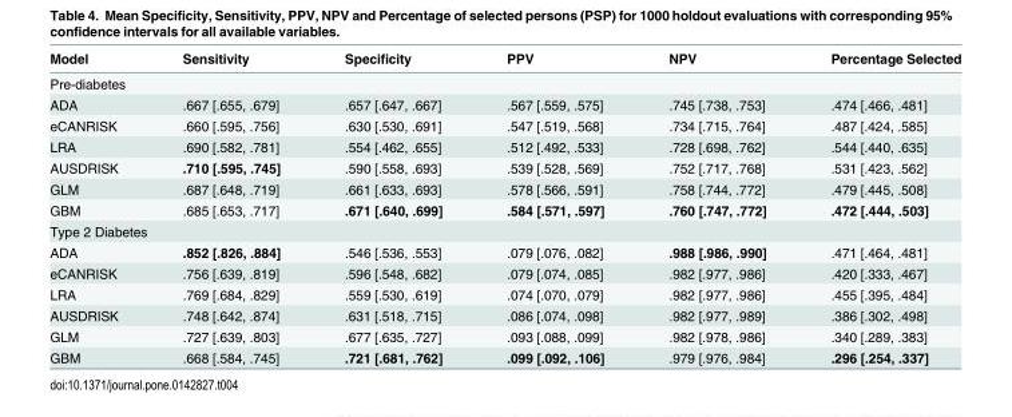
<table><thead><tr><td>Model</td><td>Sensitivity</td><td>Specificity</td><td>PPV</td><td>NPV</td><td>Percentage Selected</td></tr></thead><tbody><tr><td colspan="6">Pre-diabetes</td></tr><tr><td>ADA</td><td>.667 [.655, .679]</td><td>.657 [.647, .667]</td><td>.567 [.559, .575]</td><td>.745 [.738, .753]</td><td>.474 [.466, .481]</td></tr><tr><td>eCANRISK</td><td>.660 [.595, .756]</td><td>.630 [.530, .691]</td><td>.547 [.519, .568]</td><td>.734 [.715, .764]</td><td>.487 [.424, .585]</td></tr><tr><td>LRA</td><td>.690 [.582, .781]</td><td>.554 [.462, .655]</td><td>.512 [.492, .533]</td><td>.728 [.698, .762]</td><td>.544 [.440, .635]</td></tr><tr><td>AUSDRISK</td><td>.710 [.595, .745]</td><td>.590 [.558, .693]</td><td>.539 [.528, .569]</td><td>.752 [.717, .768]</td><td>.531 [.423, .562]</td></tr><tr><td>GLM</td><td>.687 [.648, .719]</td><td>.661 [.633, .693]</td><td>.578 [.566, .591]</td><td>.758 [.744, .772]</td><td>.479 [.445, .508]</td></tr><tr><td>GBM</td><td>.685 [.653, .717]</td><td>.671 [.640, .699]</td><td>.584 [.571, .597]</td><td>.760 [.747, .772]</td><td>.472 [.444, .503]</td></tr><tr><td colspan="6">Type 2 Diabetes</td></tr><tr><td>ADA</td><td>.852 [.826, .884]</td><td>.546 [.536, .553]</td><td>.079 [.076, .082]</td><td>.988 [.986, .990]</td><td>.471 [.464, .481]</td></tr><tr><td>eCANRISK</td><td>.756 [.639, .819]</td><td>.596 [.548, .682]</td><td>.079 [.074, .085]</td><td>.982 [.977, .986]</td><td>.420 [.333, .467]</td></tr><tr><td>LRA</td><td>.769 [.684, .829]</td><td>.559 [.530, .619]</td><td>.074 [.070, .079]</td><td>.982 [.977, .986]</td><td>.455 [.395, .484]</td></tr><tr><td>AUSDRISK</td><td>.748 [.642, .874]</td><td>.631 [.518, .715]</td><td>.086 [.074, .098]</td><td>.982 [.977, .989]</td><td>.386 [.302, .498]</td></tr><tr><td>GLM</td><td>.727 [.639, .803]</td><td>.677 [.635, .727]</td><td>.093 [.088, .099]</td><td>.982 [.978, .986]</td><td>.340 [.289, .383]</td></tr><tr><td>GBM</td><td>.668 [.584, .745]</td><td>.721 [.681, .762]</td><td>.099 [.092, .106]</td><td>.979 [.976, .984]</td><td>.296 [.254, .337]</td></tr></tbody></table>